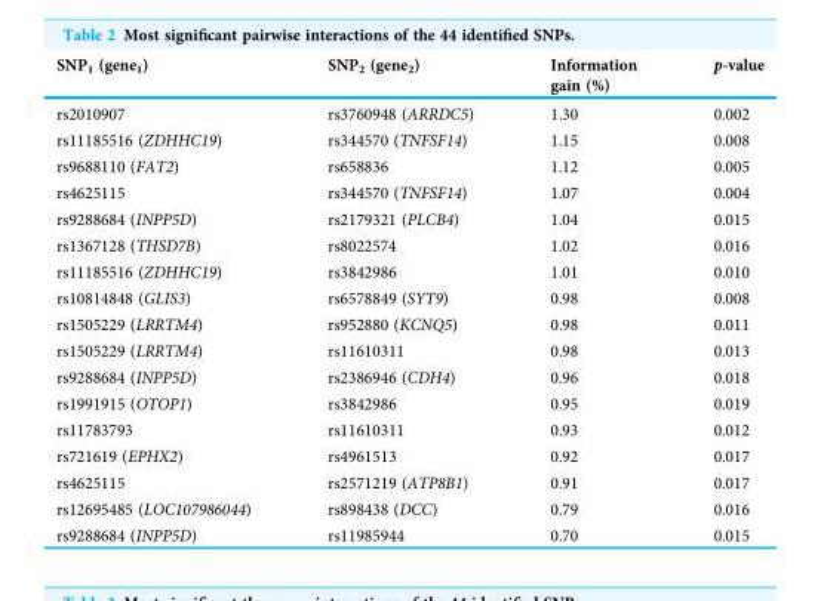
<table><thead><tr><td>SNP<sub>1</sub> (gene<sub>1</sub>)</td><td>SNP<sub>2</sub> (gene<sub>2</sub>)</td><td>Information gain (%)</td><td>p-value</td></tr></thead><tbody><tr><td>rs2010907</td><td>rs3760948 (ARRDC5)</td><td>1.30</td><td>0.002</td></tr><tr><td>rs11185516 (ZDHHC19)</td><td>rs344570 (TNFSF14)</td><td>1.15</td><td>0.008</td></tr><tr><td>rs9688110 (FAT2)</td><td>rs658836</td><td>1.12</td><td>0.005</td></tr><tr><td>rs4625115</td><td>rs344570 (TNFSF14)</td><td>1.07</td><td>0.004</td></tr><tr><td>rs9288684 (INPP5D)</td><td>rs2179321 (PLCB4)</td><td>1.04</td><td>0.015</td></tr><tr><td>rs1367128 (THSD7B)</td><td>rs8022574</td><td>1.02</td><td>0.016</td></tr><tr><td>rs11185516 (ZDHHC19)</td><td>rs3842986</td><td>1.01</td><td>0.010</td></tr><tr><td>rs10814848 (GLIS3)</td><td>rs6578849 (SYT9)</td><td>0.98</td><td>0.008</td></tr><tr><td>rs1505229 (LRRTM4)</td><td>rs952880 (KCNQ5)</td><td>0.98</td><td>0.011</td></tr><tr><td>rs1505229 (LRRTM4)</td><td>rs11610311</td><td>0.98</td><td>0.013</td></tr><tr><td>rs9288684 (INPP5D)</td><td>rs2386946 (CDH4)</td><td>0.96</td><td>0.018</td></tr><tr><td>rs1991915 (OTOP1)</td><td>rs3842986</td><td>0.95</td><td>0.019</td></tr><tr><td>rs11783793</td><td>rs11610311</td><td>0.93</td><td>0.012</td></tr><tr><td>rs721619 (EPHX2)</td><td>rs4961513</td><td>0.92</td><td>0.017</td></tr><tr><td>rs4625115</td><td>rs2571219 (ATP8B1)</td><td>0.91</td><td>0.017</td></tr><tr><td>rs12695485 (LOC107986044)</td><td>rs898438 (DCC)</td><td>0.79</td><td>0.016</td></tr><tr><td>rs9288684 (INPP5D)</td><td>rs11985944</td><td>0.70</td><td>0.015</td></tr></tbody></table>